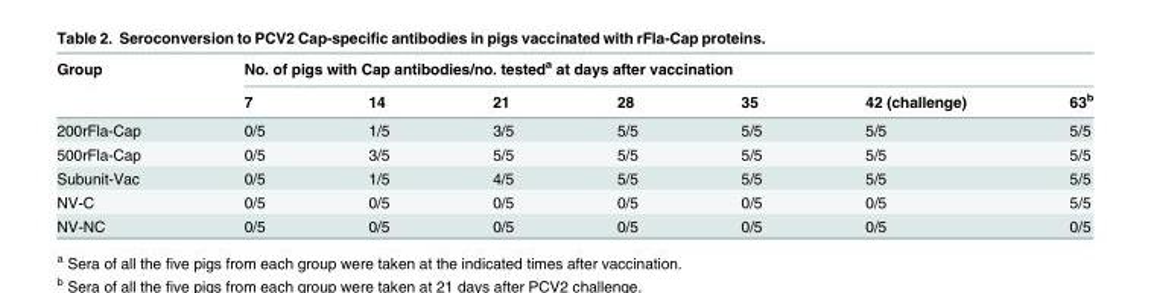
<table><thead><tr><td rowspan="2">Group</td><td colspan="7">No. of pigs with Cap antibodies/no. tested<sup>a</sup> at days after vaccination</td></tr><tr><td>7</td><td>14</td><td>21</td><td>28</td><td>35</td><td>42 (challenge)</td><td>63<sup>b</sup></td></tr></thead><tbody><tr><td>200rFla-Cap</td><td>0/5</td><td>1/5</td><td>3/5</td><td>5/5</td><td>5/5</td><td>5/5</td><td>5/5</td></tr><tr><td>500rFla-Cap</td><td>0/5</td><td>3/5</td><td>5/5</td><td>5/5</td><td>5/5</td><td>5/5</td><td>5/5</td></tr><tr><td>Subunit-Vac</td><td>0/5</td><td>1/5</td><td>4/5</td><td>5/5</td><td>5/5</td><td>5/5</td><td>5/5</td></tr><tr><td>NV-C</td><td>0/5</td><td>0/5</td><td>0/5</td><td>0/5</td><td>0/5</td><td>0/5</td><td>5/5</td></tr><tr><td>NV-NC</td><td>0/5</td><td>0/5</td><td>0/5</td><td>0/5</td><td>0/5</td><td>0/5</td><td>0/5</td></tr></tbody></table>